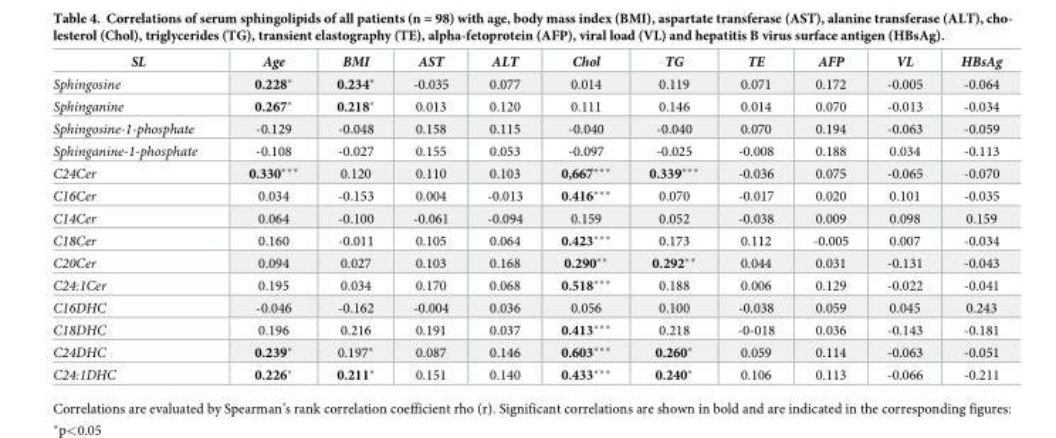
<table><thead><tr><td>SL</td><td>Age</td><td>BMI</td><td>AST</td><td>ALT</td><td>Chol</td><td>TG</td><td>TE</td><td>AFP</td><td>VL</td><td>HBsAg</td></tr></thead><tbody><tr><td>Sphingosine</td><td>0.228*</td><td>0.234*</td><td>-0.035</td><td>0.077</td><td>0.014</td><td>0.119</td><td>0.071</td><td>0.172</td><td>-0.005</td><td>-0.064</td></tr><tr><td>Sphinganine</td><td>0.267*</td><td>0.218*</td><td>0.013</td><td>0.120</td><td>0.111</td><td>0.146</td><td>0.014</td><td>0.070</td><td>-0.013</td><td>-0.034</td></tr><tr><td>Sphingosine-1-phosphate</td><td>-0.129</td><td>-0.048</td><td>0.158</td><td>0.115</td><td>-0.040</td><td>-0.040</td><td>0.070</td><td>0.194</td><td>-0.063</td><td>-0.059</td></tr><tr><td>Sphinganine-1-phosphate</td><td>-0.108</td><td>-0.027</td><td>0.155</td><td>0.053</td><td>-0.097</td><td>-0.025</td><td>-0.008</td><td>0.188</td><td>0.034</td><td>-0.113</td></tr><tr><td>C24Cer</td><td>0.330***</td><td>0.120</td><td>0.110</td><td>0.103</td><td>0,667***</td><td>0.339***</td><td>-0.036</td><td>0.075</td><td>-0.065</td><td>-0.070</td></tr><tr><td>C16Cer</td><td>0.034</td><td>-0.153</td><td>0.004</td><td>-0.013</td><td>0.416***</td><td>0.070</td><td>-0.017</td><td>0.020</td><td>0.101</td><td>-0.035</td></tr><tr><td>C14Cer</td><td>0.064</td><td>-0.100</td><td>-0.061</td><td>-0.094</td><td>0.159</td><td>0.052</td><td>-0.038</td><td>0.009</td><td>0.098</td><td>0.159</td></tr><tr><td>C18Cer</td><td>0.160</td><td>-0.011</td><td>0.105</td><td>0.064</td><td>0.423***</td><td>0.173</td><td>0.112</td><td>-0.005</td><td>0.007</td><td>-0.034</td></tr><tr><td>C20Cer</td><td>0.094</td><td>0.027</td><td>0.103</td><td>0.168</td><td>0.290**</td><td>0.292**</td><td>0.044</td><td>0.031</td><td>-0.131</td><td>-0.043</td></tr><tr><td>C24:1Cer</td><td>0.195</td><td>0.034</td><td>0.170</td><td>0.068</td><td>0.518***</td><td>0.188</td><td>0.006</td><td>0.129</td><td>-0.022</td><td>-0.041</td></tr><tr><td>C16DHC</td><td>-0.046</td><td>-0.162</td><td>-0.004</td><td>0.036</td><td>0.056</td><td>0.100</td><td>-0.038</td><td>0.059</td><td>0.045</td><td>0.243</td></tr><tr><td>C18DHC</td><td>0.196</td><td>0.216</td><td>0.191</td><td>0.037</td><td>0.413***</td><td>0.218</td><td>-0-018</td><td>0.036</td><td>-0.143</td><td>-0.181</td></tr><tr><td>C24DHC</td><td>0.239*</td><td>0.197*</td><td>0.087</td><td>0.146</td><td>0.603***</td><td>0.260*</td><td>0.059</td><td>0.114</td><td>-0.063</td><td>-0.051</td></tr><tr><td>C24:1DHC</td><td>0.226*</td><td>0.211*</td><td>0.151</td><td>0.140</td><td>0.433***</td><td>0.240*</td><td>0.106</td><td>0.113</td><td>-0.066</td><td>-0.211</td></tr></tbody></table>